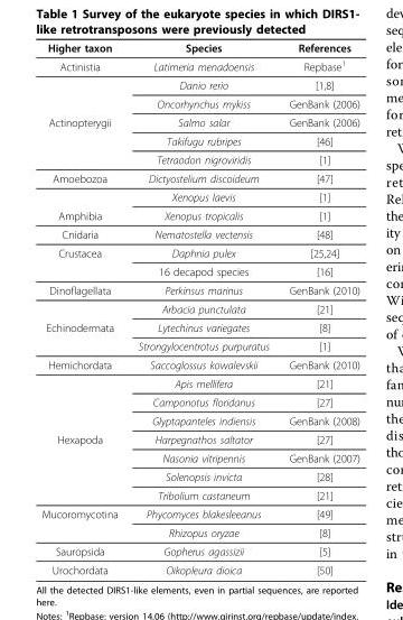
<table><thead><tr><td>Higher taxon</td><td>Species</td><td>References</td></tr></thead><tbody><tr><td rowspan="3">Actinistia</td><td>Latimeria menadoensis</td><td>Repbase<sup>1</sup></td></tr><tr><td>Danio rerio</td><td>[1,8]</td></tr><tr><td>Oncorhynchus mykiss</td><td>GenBank (2006)</td></tr><tr><td rowspan="3">Actinopterygii</td><td>Salmo salar</td><td>GenBank (2006)</td></tr><tr><td>Takifugu rubripes</td><td>[46]</td></tr><tr><td>Tetraodon nigroviridis</td><td>[1]</td></tr><tr><td rowspan="2">Amoebozoa</td><td>Dictyostelium discoideum</td><td>[47]</td></tr><tr><td>Xenopus laevis</td><td>[1]</td></tr><tr><td>Amphibia</td><td>Xenopus tropicalis</td><td>[1]</td></tr><tr><td>Cnidaria</td><td>Nematostella vectensis</td><td>[48]</td></tr><tr><td rowspan="2">Crustacea</td><td>Daphnia pulex</td><td>[25,24]</td></tr><tr><td>16 decapod species</td><td>[16]</td></tr><tr><td rowspan="2">Dinoflagellata</td><td>Perkinsus marinus</td><td>GenBank (2010)</td></tr><tr><td>Arbacia punctulata</td><td>[21]</td></tr><tr><td rowspan="2">Echinodermata</td><td>Lytechinus variegates</td><td>[8]</td></tr><tr><td>Strongylocentrotus purpuratus</td><td>[1]</td></tr><tr><td rowspan="4">Hemichordata</td><td>Saccoglossus kowalevskii</td><td>GenBank (2010)</td></tr><tr><td>Apis mellifera</td><td>[21]</td></tr><tr><td>Camponotus floridanus</td><td>[27]</td></tr><tr><td>Glyptapanteles indiensis</td><td>GenBank (2008)</td></tr><tr><td rowspan="4">Hexapoda</td><td>Harpegnathos saltator</td><td>[27]</td></tr><tr><td>Nasonia vitripennis</td><td>GenBank (2007)</td></tr><tr><td>Solenopsis invicta</td><td>[28]</td></tr><tr><td>Tribolium castaneum</td><td>[21]</td></tr><tr><td rowspan="2">Mucoromycotina</td><td>Phycomyces blakesleeanus</td><td>[49]</td></tr><tr><td>Rhizopus oryzae</td><td>[8]</td></tr><tr><td>Sauropsida</td><td>Gopherus agassizii</td><td>[5]</td></tr><tr><td>Urochordata</td><td>Oikopleura dioica</td><td>[50]</td></tr></tbody></table>